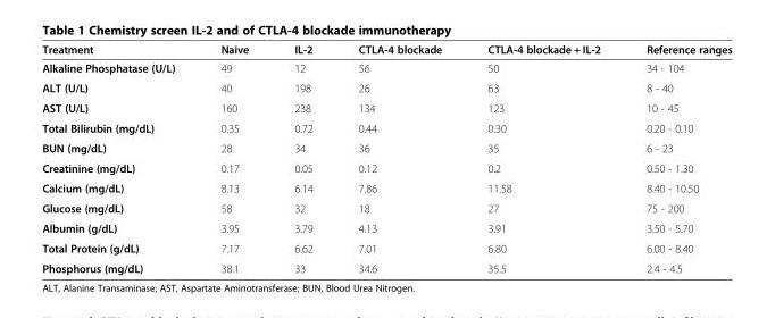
<table><thead><tr><td>Treatment</td><td>Naive</td><td>IL-2</td><td>CTLA-4 blockade</td><td>CTLA-4 blockade + IL-2</td><td>Reference ranges</td></tr></thead><tbody><tr><td>Alkaline Phosphatase (U/L)</td><td>49</td><td>12</td><td>56</td><td>50</td><td>34 - 104</td></tr><tr><td>ALT (U/L)</td><td>40</td><td>198</td><td>26</td><td>63</td><td>8 - 40</td></tr><tr><td>AST (U/L)</td><td>160</td><td>238</td><td>134</td><td>123</td><td>10 - 45</td></tr><tr><td>Total Bilirubin (mg/dL)</td><td>0.35</td><td>0.72</td><td>0.44</td><td>0.30</td><td>0.20 - 0.10</td></tr><tr><td>BUN (mg/dL)</td><td>28</td><td>34</td><td>36</td><td>35</td><td>6 - 23</td></tr><tr><td>Creatinine (mg/dL)</td><td>0.17</td><td>0.05</td><td>0.12</td><td>0.2</td><td>0.50 - 1.30</td></tr><tr><td>Calcium (mg/dL)</td><td>8.13</td><td>6.14</td><td>7.86</td><td>11.58</td><td>8.40 - 10.50</td></tr><tr><td>Glucose (mg/dL)</td><td>58</td><td>32</td><td>18</td><td>27</td><td>75 - 200</td></tr><tr><td>Albumin (g/dL)</td><td>3.95</td><td>3.79</td><td>4.13</td><td>3.91</td><td>3.50 - 5.70</td></tr><tr><td>Total Protein (g/dL)</td><td>7.17</td><td>6.62</td><td>7.01</td><td>6.80</td><td>6.00 - 8.40</td></tr><tr><td>Phosphorus (mg/dL)</td><td>38.1</td><td>33</td><td>34.6</td><td>35.5</td><td>2.4 - 4.5</td></tr></tbody></table>